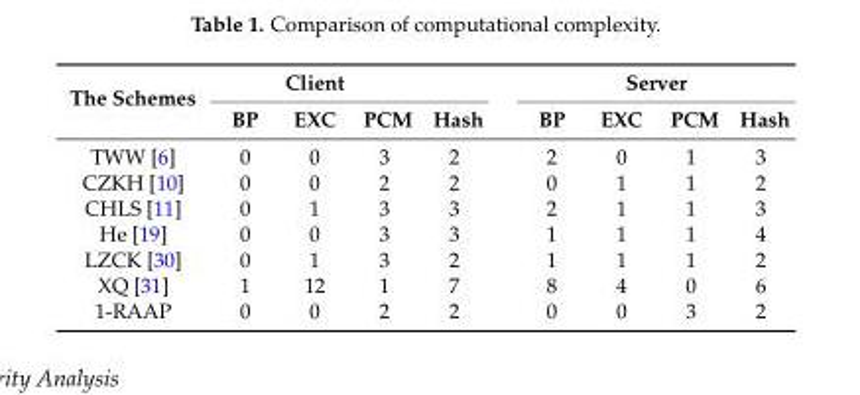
<table><thead><tr><td rowspan="2">The Schemes</td><td colspan="3">Client</td><td rowspan="2">Hash</td><td rowspan="2">BP</td><td colspan="2">Server</td><td rowspan="2">Hash</td></tr><tr><td>BP</td><td>EXC</td><td>PCM</td><td>EXC</td><td>PCM</td></tr></thead><tbody><tr><td>TWW [6]</td><td>0</td><td>0</td><td>3</td><td>2</td><td>2</td><td>0</td><td>1</td><td>3</td></tr><tr><td>CZKH [10]</td><td>0</td><td>0</td><td>2</td><td>2</td><td>0</td><td>1</td><td>1</td><td>2</td></tr><tr><td>CHLS [11]</td><td>0</td><td>1</td><td>3</td><td>3</td><td>2</td><td>1</td><td>1</td><td>3</td></tr><tr><td>He [19]</td><td>0</td><td>0</td><td>3</td><td>3</td><td>1</td><td>1</td><td>1</td><td>4</td></tr><tr><td>LZCK [30]</td><td>0</td><td>1</td><td>3</td><td>2</td><td>1</td><td>1</td><td>1</td><td>2</td></tr><tr><td>XQ [31]</td><td>1</td><td>12</td><td>1</td><td>7</td><td>8</td><td>4</td><td>0</td><td>6</td></tr><tr><td>1-RAAP</td><td>0</td><td>0</td><td>2</td><td>2</td><td>0</td><td>0</td><td>3</td><td>2</td></tr></tbody></table>